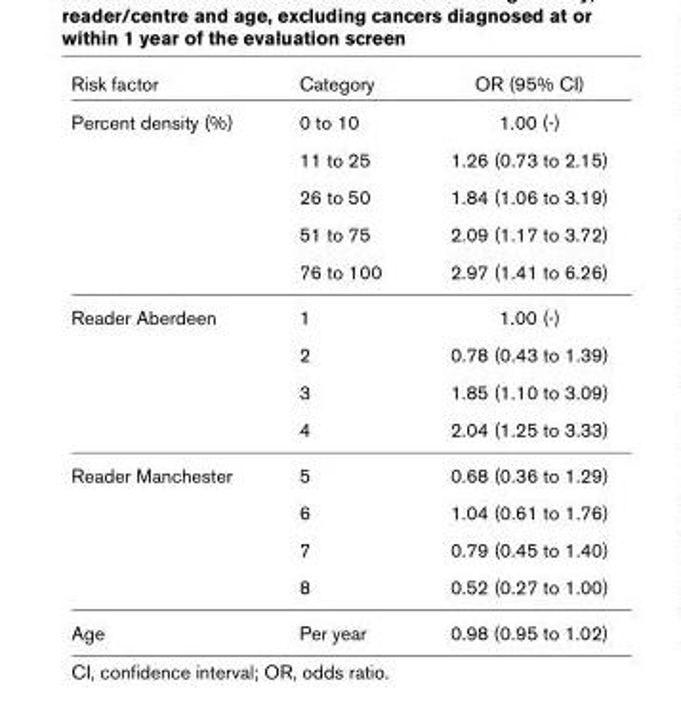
<table><thead><tr><td>Risk factor</td><td>Category</td><td>OR (95% CI)</td></tr></thead><tbody><tr><td rowspan="5">Percent density (%)</td><td>0 to 10</td><td>1.00 (-)</td></tr><tr><td>11 to 25</td><td>1.26 (0.73 to 2.15)</td></tr><tr><td>26 to 50</td><td>1.84 (1.06 to 3.19)</td></tr><tr><td>51 to 75</td><td>2.09 (1.17 to 3.72)</td></tr><tr><td>76 to 100</td><td>2.97 (1.41 to 6.26)</td></tr><tr><td rowspan="4">Reader Aberdeen</td><td>1</td><td>1.00 (-)</td></tr><tr><td>2</td><td>0.78 (0.43 to 1.39)</td></tr><tr><td>3</td><td>1.85 (1.10 to 3.09)</td></tr><tr><td>4</td><td>2.04 (1.25 to 3.33)</td></tr><tr><td rowspan="4">Reader Manchester</td><td>5</td><td>0.68 (0.36 to 1.29)</td></tr><tr><td>6</td><td>1.04 (0.61 to 1.76)</td></tr><tr><td>7</td><td>0.79 (0.45 to 1.40)</td></tr><tr><td>8</td><td>0.52 (0.27 to 1.00)</td></tr><tr><td>Age</td><td>Per year</td><td>0.98 (0.95 to 1.02)</td></tr></tbody></table>